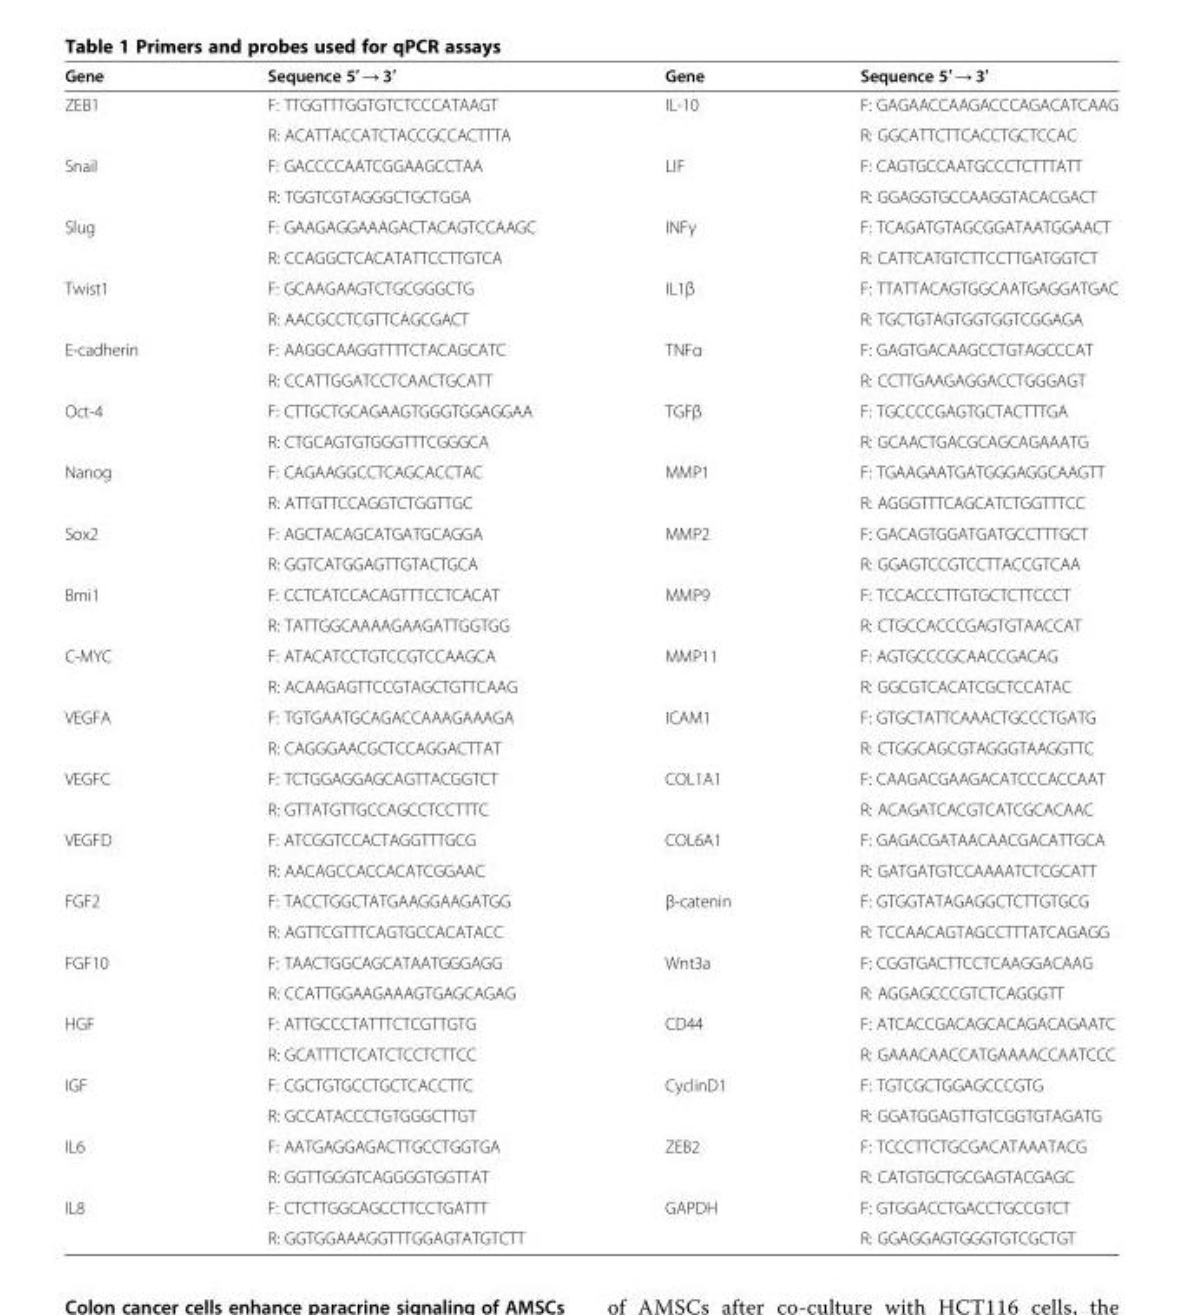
<table><thead><tr><td>Gene</td><td>Sequence 5′ → 3′</td><td>Gene</td><td>Sequence 5′ → 3′</td></tr></thead><tbody><tr><td rowspan="2">ZEB1</td><td>F: TTGGTTTGGTGTCTCCCATAAGT</td><td rowspan="2">IL-10</td><td>F: GAGAACCAAGACCCAGACATCAAG</td></tr><tr><td>R: ACATTACCATCTACCGCCACTTTA</td><td>R: GGCATTCTTCACCTGCTCCAC</td></tr><tr><td rowspan="2">Snail</td><td>F: GACCCCAATCGGAAGCCTAA</td><td rowspan="2">LIF</td><td>F: CAGTGCCAATGCCCTCTTTATT</td></tr><tr><td>R: TGGTCGTAGGGCTGCTGGA</td><td>R: GGAGGTGCCAAGGTACACGACT</td></tr><tr><td rowspan="2">Slug</td><td>F: GAAGAGGAAAGACTACAGTCCAAGC</td><td rowspan="2">INFγ</td><td>F: TCAGATGTAGCGGATAATGGAACT</td></tr><tr><td>R: CCAGGCTCACATATTCCTTGTCA</td><td>R: CATTCATGTCTTCCTTGATGGTCT</td></tr><tr><td rowspan="2">Twist1</td><td>F: GCAAGAAGTCTGCGGGCTG</td><td rowspan="2">IL1β</td><td>F: TTATTACAGTGGCAATGAGGATGAC</td></tr><tr><td>R: AACGCCTCGTTCAGCGACT</td><td>R: TGCTGTAGTGGTGGTCGGAGA</td></tr><tr><td rowspan="2">E-cadherin</td><td>F: AAGGCAAGGTTTTCTACAGCATC</td><td rowspan="2">TNFα</td><td>F: GAGTGACAAGCCTGTAGCCCAT</td></tr><tr><td>R: CCATTGGATCCTCAACTGCATT</td><td>R: CCTTGAAGAGGACCTGGGAGT</td></tr><tr><td rowspan="2">Oct-4</td><td>F: CTTGCTGCAGAAGTGGGTGGAGGAA</td><td rowspan="2">TGFβ</td><td>F: TGCCCCGAGTGCTACTTTGA</td></tr><tr><td>R: CTGCAGTGTGGGTTTCGGGCA</td><td>R: GCAACTGACGCAGCAGAAATG</td></tr><tr><td rowspan="2">Nanog</td><td>F: CAGAAGGCCTCAGCACCTAC</td><td rowspan="2">MMP1</td><td>F: TGAAGAATGATGGGAGGCAAGTT</td></tr><tr><td>R: ATTGTTCCAGGTCTGGTTGC</td><td>R: AGGGTTTCAGCATCTGGTTTCC</td></tr><tr><td rowspan="2">Sox2</td><td>F: AGCTACAGCATGATGCAGGA</td><td rowspan="2">MMP2</td><td>F: GACAGTGGATGATGCCTTTGCT</td></tr><tr><td>R: GGTCATGGAGTTGTACTGCA</td><td>R: GGAGTCCGTCCTTACCGTCAA</td></tr><tr><td rowspan="2">Bmi1</td><td>F: CCTCATCCACAGTTTCCTCACAT</td><td rowspan="2">MMP9</td><td>F: TCCACCCTTGTGCTCTTCCCT</td></tr><tr><td>R: TATTGGCAAAAGAAGATTGGTGG</td><td>R: CTGCCACCCGAGTGTAACCAT</td></tr><tr><td rowspan="2">C-MYC</td><td>F: ATACATCCTGTCCGTCCAAGCA</td><td rowspan="2">MMP11</td><td>F: AGTGCCCGCAACCGACAG</td></tr><tr><td>R: ACAAGAGTTCCGTAGCTGTTCAAG</td><td>R: GGCGTCACATCGCTCCATAC</td></tr><tr><td rowspan="2">VEGFA</td><td>F: TGTGAATGCAGACCAAAGAAAGA</td><td rowspan="2">ICAM1</td><td>F: GTGCTATTCAAACTGCCCTGATG</td></tr><tr><td>R: CAGGGAACGCTCCAGGACTTAT</td><td>R: CTGGCAGCGTAGGGTAAGGTTC</td></tr><tr><td rowspan="2">VEGFC</td><td>F: TCTGGAGGAGCAGTTACGGTCT</td><td rowspan="2">COL1A1</td><td>F: CAAGACGAAGACATCCCACCAAT</td></tr><tr><td>R: GTTATGTTGCCAGCCTCCTTTC</td><td>R: ACAGATCACGTCATCGCACAAC</td></tr><tr><td rowspan="2">VEGFD</td><td>F: ATCGGTCCACTAGGTTTGCG</td><td rowspan="2">COL6A1</td><td>F: GAGACGATAACAACGACATTGCA</td></tr><tr><td>R: AACAGCCACCACATCGGAAC</td><td>R: GATGATGTCCAAAATCTCGCATT</td></tr><tr><td rowspan="2">FGF2</td><td>F: TACCTGGCTATGAAGGAAGATGG</td><td rowspan="2">β-catenin</td><td>F: GTGGTATAGAGGCTCTTGTGCG</td></tr><tr><td>R: AGTTCGTTTCAGTGCCACATACC</td><td>R: TCCAACAGTAGCCTTTATCAGAGG</td></tr><tr><td rowspan="2">FGF10</td><td>F: TAACTGGCAGCATAATGGGAGG</td><td rowspan="2">Wnt3a</td><td>F: CGGTGACTTCCTCAAGGACAAG</td></tr><tr><td>R: CCATTGGAAGAAAGTGAGCAGAG</td><td>R: AGGAGCCCGTCTCAGGGTT</td></tr><tr><td rowspan="2">HGF</td><td>F: ATTGCCCTATTTCTCGTTGTG</td><td rowspan="2">CD44</td><td>F: ATCACCGACAGCACAGACAGAATC</td></tr><tr><td>R: GCATTTCTCATCTCCTCTTCC</td><td>R: GAAACAACCATGAAAACCAATCCC</td></tr><tr><td rowspan="2">IGF</td><td>F: CGCTGTGCCTGCTCACCTTC</td><td rowspan="2">CyclinD1</td><td>F: TGTCGCTGGAGCCCGTG</td></tr><tr><td>R: GCCATACCCTGTGGGCTTGT</td><td>R: GGATGGAGTTGTCGGTGTAGATG</td></tr><tr><td rowspan="2">IL6</td><td>F: AATGAGGAGACTTGCCTGGTGA</td><td rowspan="2">ZEB2</td><td>F: TCCCTTCTGCGACATAAATACG</td></tr><tr><td>R: GGTTGGGTCAGGGGTGGTTAT</td><td>R: CATGTGCTGCGAGTACGAGC</td></tr><tr><td rowspan="2">IL8</td><td>F: CTCTTGGCAGCCTTCCTGATTT</td><td rowspan="2">GAPDH</td><td>F: GTGGACCTGACCTGCCGTCT</td></tr><tr><td>R: GGTGGAAAGGTTTGGAGTATGTCTT</td><td>R: GGAGGAGTGGGTGTCGCTGT</td></tr></tbody></table>